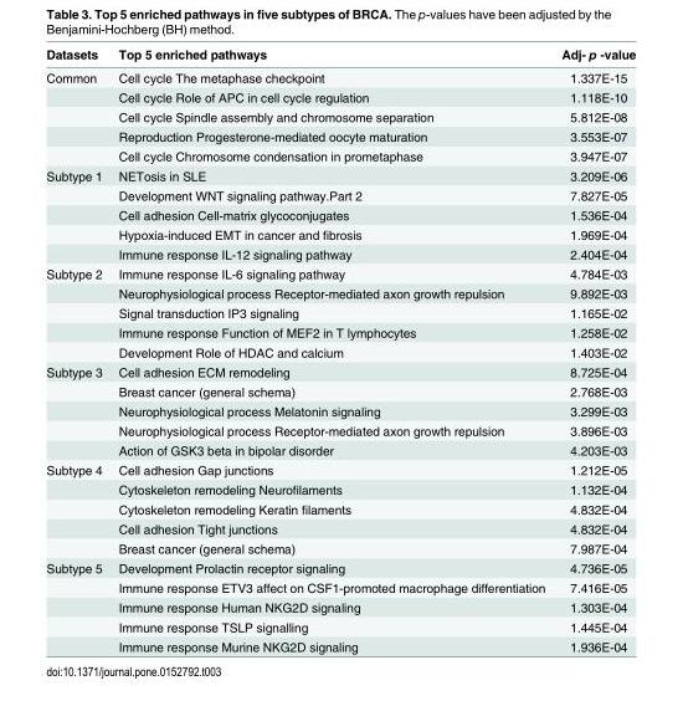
<table><thead><tr><td>Datasets</td><td>Top 5 enriched pathways</td><td>Adj- p -value</td></tr></thead><tbody><tr><td rowspan="5">Common</td><td>Cell cycle The metaphase checkpoint</td><td>1.337E-15</td></tr><tr><td>Cell cycle Role of APC in cell cycle regulation</td><td>1.118E-10</td></tr><tr><td>Cell cycle Spindle assembly and chromosome separation</td><td>5.812E-08</td></tr><tr><td>Reproduction Progesterone-mediated oocyte maturation</td><td>3.553E-07</td></tr><tr><td>Cell cycle Chromosome condensation in prometaphase</td><td>3.947E-07</td></tr><tr><td rowspan="5">Subtype 1</td><td>NETosis in SLE</td><td>3.209E-06</td></tr><tr><td>Development WNT signaling pathway.Part 2</td><td>7.827E-05</td></tr><tr><td>Cell adhesion Cell-matrix glycoconjugates</td><td>1.536E-04</td></tr><tr><td>Hypoxia-induced EMT in cancer and fibrosis</td><td>1.969E-04</td></tr><tr><td>Immune response IL-12 signaling pathway</td><td>2.404E-04</td></tr><tr><td rowspan="5">Subtype 2</td><td>Immune response IL-6 signaling pathway</td><td>4.784E-03</td></tr><tr><td>Neurophysiological process Receptor-mediated axon growth repulsion</td><td>9.892E-03</td></tr><tr><td>Signal transduction IP3 signaling</td><td>1.165E-02</td></tr><tr><td>Immune response Function of MEF2 in T lymphocytes</td><td>1.258E-02</td></tr><tr><td>Development Role of HDAC and calcium</td><td>1.403E-02</td></tr><tr><td rowspan="5">Subtype 3</td><td>Cell adhesion ECM remodeling</td><td>8.725E-04</td></tr><tr><td>Breast cancer (general schema)</td><td>2.768E-03</td></tr><tr><td>Neurophysiological process Melatonin signaling</td><td>3.299E-03</td></tr><tr><td>Neurophysiological process Receptor-mediated axon growth repulsion</td><td>3.896E-03</td></tr><tr><td>Action of GSK3 beta in bipolar disorder</td><td>4.203E-03</td></tr><tr><td rowspan="5">Subtype 4</td><td>Cell adhesion Gap junctions</td><td>1.212E-05</td></tr><tr><td>Cytoskeleton remodeling Neurofilaments</td><td>1.132E-04</td></tr><tr><td>Cytoskeleton remodeling Keratin filaments</td><td>4.832E-04</td></tr><tr><td>Cell adhesion Tight junctions</td><td>4.832E-04</td></tr><tr><td>Breast cancer (general schema)</td><td>7.987E-04</td></tr><tr><td rowspan="5">Subtype 5</td><td>Development Prolactin receptor signaling</td><td>4.736E-05</td></tr><tr><td>Immune response ETV3 affect on CSF1-promoted macrophage differentiation</td><td>7.416E-05</td></tr><tr><td>Immune response Human NKG2D signaling</td><td>1.303E-04</td></tr><tr><td>Immune response TSLP signalling</td><td>1.445E-04</td></tr><tr><td>Immune response Murine NKG2D signaling</td><td>1.936E-04</td></tr></tbody></table>